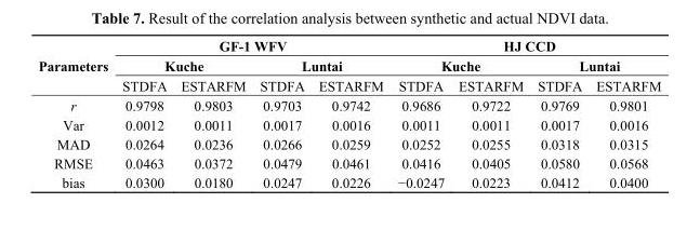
<table><tbody><tr><td rowspan="3">Parameters</td><td colspan="4">GF-1 WFV</td><td colspan="4">HJ CCD</td></tr><tr><td colspan="2">Kuche</td><td colspan="2">Luntai</td><td colspan="2">Kuche</td><td colspan="2">Luntai</td></tr><tr><td>STDFA</td><td>ESTARFM</td><td>STDFA</td><td>ESTARFM</td><td>STDFA</td><td>ESTARFM</td><td>STDFA</td><td>ESTARFM</td></tr><tr><td>r</td><td>0.9798</td><td>0.9803</td><td>0.9703</td><td>0.9742</td><td>0.9686</td><td>0.9722</td><td>0.9769</td><td>0.9801</td></tr><tr><td>Var</td><td>0.0012</td><td>0.0011</td><td>0.0017</td><td>0.0016</td><td>0.0011</td><td>0.0011</td><td>0.0017</td><td>0.0016</td></tr><tr><td>MAD</td><td>0.0264</td><td>0.0236</td><td>0.0266</td><td>0.0259</td><td>0.0252</td><td>0.0255</td><td>0.0318</td><td>0.0315</td></tr><tr><td>RMSE</td><td>0.0463</td><td>0.0372</td><td>0.0479</td><td>0.0461</td><td>0.0416</td><td>0.0405</td><td>0.0580</td><td>0.0568</td></tr><tr><td>bias</td><td>0.0300</td><td>0.0180</td><td>0.0247</td><td>0.0226</td><td>−0.0247</td><td>0.0223</td><td>0.0412</td><td>0.0400</td></tr></tbody></table>